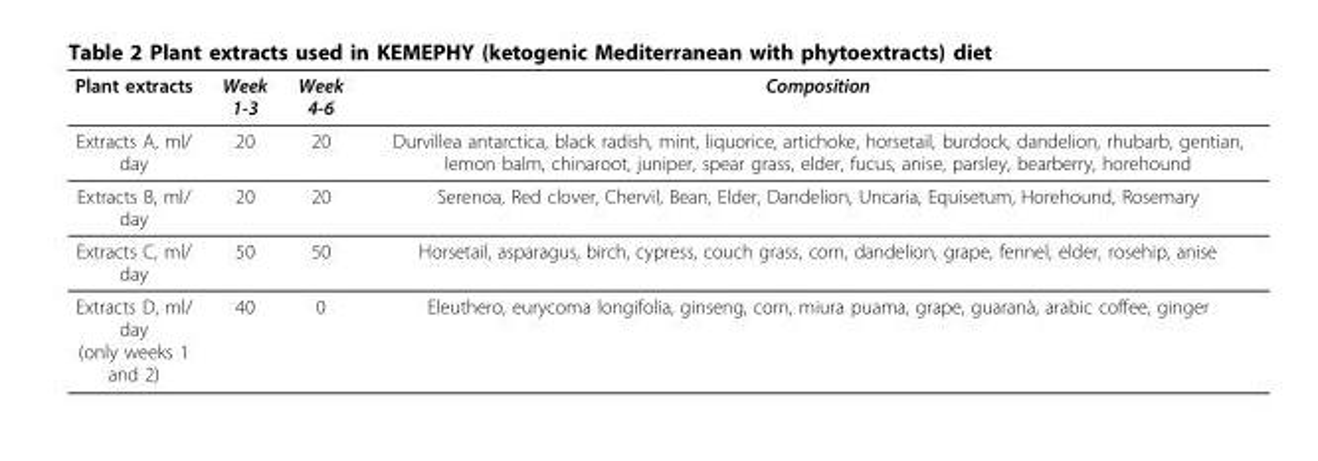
<table><thead><tr><td>Plant extracts</td><td>Week 1-3</td><td>Week 4-6</td><td>Composition</td></tr></thead><tbody><tr><td>Extracts A, ml/ day</td><td>20</td><td>20</td><td>Durvillea antarctica, black radish, mint, liquorice, artichoke, horsetail, burdock, dandelion, rhubarb, gentian, lemon balm, chinaroot, juniper, spear grass, elder, fucus, anise, parsley, bearberry, horehound</td></tr><tr><td>Extracts B, ml/ day</td><td>20</td><td>20</td><td>Serenoa, Red clover, Chervil, Bean, Elder, Dandelion, Uncaria, Equisetum, Horehound, Rosemary</td></tr><tr><td>Extracts C, ml/ day</td><td>50</td><td>50</td><td>Horsetail, asparagus, birch, cypress, couch grass, corn, dandelion, grape, fennel, elder, rosehip, anise</td></tr><tr><td>Extracts D, ml/ day (only weeks 1 and 2)</td><td>40</td><td>0</td><td>Eleuthero, eurycoma longifolia, ginseng, corn, miura puama, grape, guaranà, arabic coffee, ginger</td></tr></tbody></table>